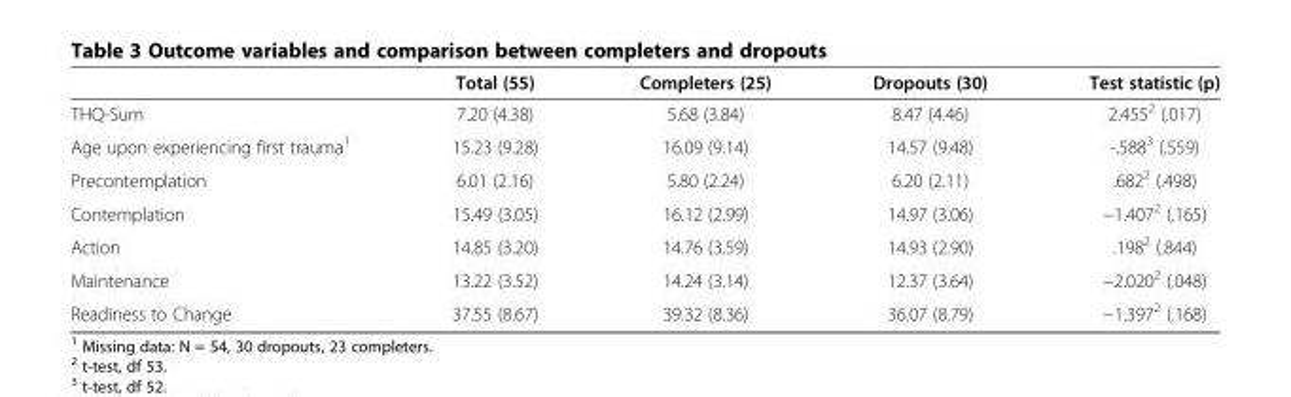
<table><thead><tr><td></td><td>Total (55)</td><td>Completers (25)</td><td>Dropouts (30)</td><td>Test statistic (p)</td></tr></thead><tbody><tr><td>THQ-Sum</td><td>7.20 (4.38)</td><td>5.68 (3.84)</td><td>8.47 (4.46)</td><td>2.455<sup>2</sup> (.017)</td></tr><tr><td>Age upon experiencing first trauma<sup>1</sup></td><td>15.23 (9.28)</td><td>16.09 (9.14)</td><td>14.57 (9.48)</td><td>-.588<sup>3</sup> (.559)</td></tr><tr><td>Precontemplation</td><td>6.01 (2.16)</td><td>5.80 (2.24)</td><td>6.20 (2.11)</td><td>.682<sup>2</sup> (.498)</td></tr><tr><td>Contemplation</td><td>15.49 (3.05)</td><td>16.12 (2.99)</td><td>14.97 (3.06)</td><td>−1.407<sup>2</sup> (.165)</td></tr><tr><td>Action</td><td>14.85 (3.20)</td><td>14.76 (3.59)</td><td>14.93 (2.90)</td><td>.198<sup>2</sup> (.844)</td></tr><tr><td>Maintenance</td><td>13.22 (3.52)</td><td>14.24 (3.14)</td><td>12.37 (3.64)</td><td>−2.020<sup>2</sup> (.048)</td></tr><tr><td>Readiness to Change</td><td>37.55 (8.67)</td><td>39.32 (8.36)</td><td>36.07 (8.79)</td><td>−1.397<sup>2</sup> (.168)</td></tr></tbody></table>